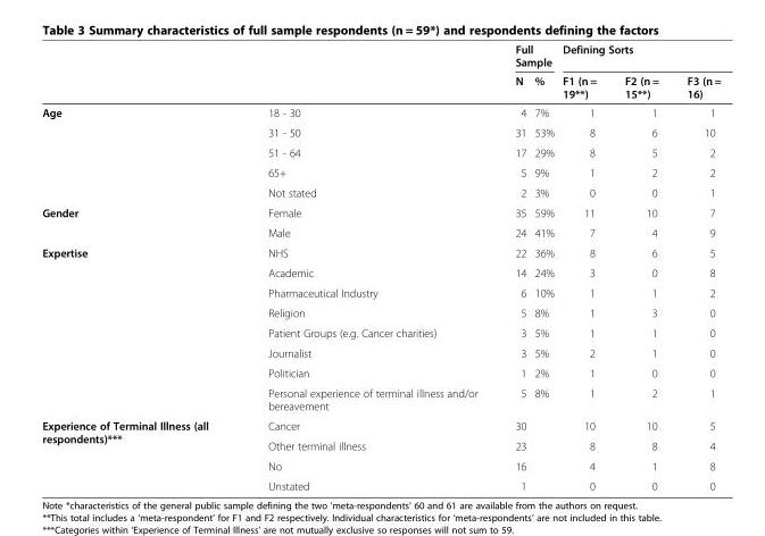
<table><thead><tr><td rowspan="2"></td><td rowspan="2"></td><td colspan="2">Full Sample</td><td colspan="3">Defining Sorts</td></tr><tr><td>N</td><td>%</td><td>F1 (n = 19**)</td><td>F2 (n = 15**)</td><td>F3 (n = 16)</td></tr></thead><tbody><tr><td rowspan="5">Age</td><td>18 - 30</td><td>4</td><td>7%</td><td>1</td><td>1</td><td>1</td></tr><tr><td>31 - 50</td><td>31</td><td>53%</td><td>8</td><td>6</td><td>10</td></tr><tr><td>51 - 64</td><td>17</td><td>29%</td><td>8</td><td>5</td><td>2</td></tr><tr><td>65+</td><td>5</td><td>9%</td><td>1</td><td>2</td><td>2</td></tr><tr><td>Not stated</td><td>2</td><td>3%</td><td>0</td><td>0</td><td>1</td></tr><tr><td rowspan="2">Gender</td><td>Female</td><td>35</td><td>59%</td><td>11</td><td>10</td><td>7</td></tr><tr><td>Male</td><td>24</td><td>41%</td><td>7</td><td>4</td><td>9</td></tr><tr><td rowspan="8">Expertise</td><td>NHS</td><td>22</td><td>36%</td><td>8</td><td>6</td><td>5</td></tr><tr><td>Academic</td><td>14</td><td>24%</td><td>3</td><td>0</td><td>8</td></tr><tr><td>Pharmaceutical Industry</td><td>6</td><td>10%</td><td>1</td><td>1</td><td>2</td></tr><tr><td>Religion</td><td>5</td><td>8%</td><td>1</td><td>3</td><td>0</td></tr><tr><td>Patient Groups (e.g. Cancer charities)</td><td>3</td><td>5%</td><td>1</td><td>1</td><td>0</td></tr><tr><td>Journalist</td><td>3</td><td>5%</td><td>2</td><td>1</td><td>0</td></tr><tr><td>Politician</td><td>1</td><td>2%</td><td>1</td><td>0</td><td>0</td></tr><tr><td>Personal experience of terminal illness and/or bereavement</td><td>5</td><td>8%</td><td>1</td><td>2</td><td>1</td></tr><tr><td rowspan="4">Experience of Terminal Illness (all respondents)***</td><td>Cancer</td><td>30</td><td></td><td>10</td><td>10</td><td>5</td></tr><tr><td>Other terminal illness</td><td>23</td><td></td><td>8</td><td>8</td><td>4</td></tr><tr><td>No</td><td>16</td><td></td><td>4</td><td>1</td><td>8</td></tr><tr><td>Unstated</td><td>1</td><td></td><td>0</td><td>0</td><td>0</td></tr></tbody></table>